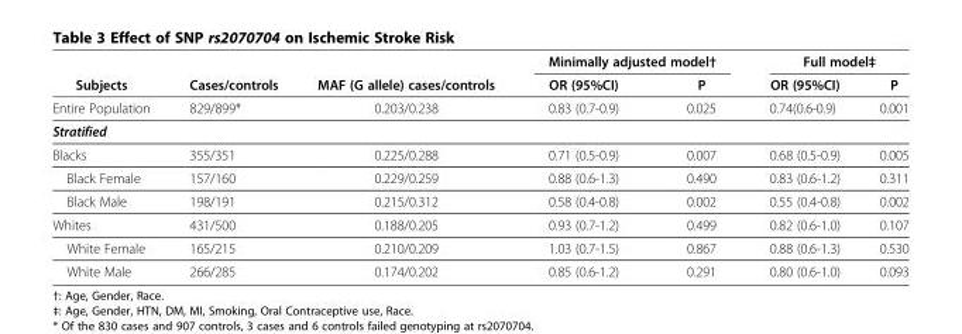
<table><thead><tr><td rowspan="2">Subjects</td><td rowspan="2">Cases/controls</td><td rowspan="2">MAF (G allele) cases/controls</td><td colspan="2">Minimally adjusted model†</td><td colspan="2">Full model‡</td></tr><tr><td>OR (95%CI)</td><td>P</td><td>OR (95%CI)</td><td>P</td></tr></thead><tbody><tr><td>Entire Population</td><td>829/899*</td><td>0.203/0.238</td><td>0.83 (0.7-0.9)</td><td>0.025</td><td>0.74(0.6-0.9)</td><td>0.001</td></tr><tr><td colspan="7">Stratified</td></tr><tr><td>Blacks</td><td>355/351</td><td>0.225/0.288</td><td>0.71 (0.5-0.9)</td><td>0.007</td><td>0.68 (0.5-0.9)</td><td>0.005</td></tr><tr><td>Black Female</td><td>157/160</td><td>0.229/0.259</td><td>0.88 (0.6-1.3)</td><td>0.490</td><td>0.83 (0.6-1.2)</td><td>0.311</td></tr><tr><td>Black Male</td><td>198/191</td><td>0.215/0.312</td><td>0.58 (0.4-0.8)</td><td>0.002</td><td>0.55 (0.4-0.8)</td><td>0.002</td></tr><tr><td>Whites</td><td>431/500</td><td>0.188/0.205</td><td>0.93 (0.7-1.2)</td><td>0.499</td><td>0.82 (0.6-1.0)</td><td>0.107</td></tr><tr><td>White Female</td><td>165/215</td><td>0.210/0.209</td><td>1.03 (0.7-1.5)</td><td>0.867</td><td>0.88 (0.6-1.3)</td><td>0.530</td></tr><tr><td>White Male</td><td>266/285</td><td>0.174/0.202</td><td>0.85 (0.6-1.2)</td><td>0.291</td><td>0.80 (0.6-1.0)</td><td>0.093</td></tr></tbody></table>